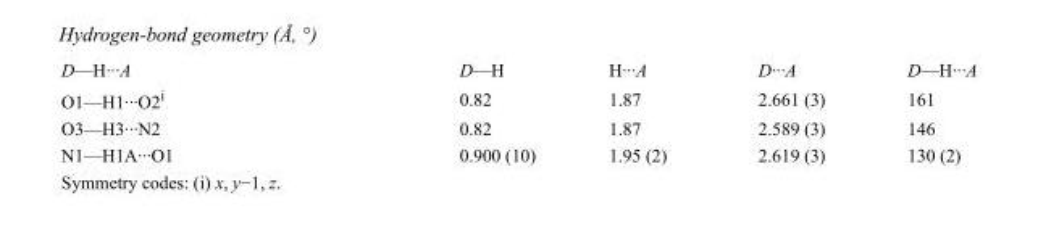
<table><tbody><tr><td>D—H···A</td><td>D—H</td><td>H···A</td><td>D···A</td><td>D—H···A</td></tr><tr><td>O1—H1···O2<sup>i</sup></td><td>0.82</td><td>1.87</td><td>2.661 (3)</td><td>161</td></tr><tr><td>O3—H3···N2</td><td>0.82</td><td>1.87</td><td>2.589 (3)</td><td>146</td></tr><tr><td>N1—H1A···O1</td><td>0.900 (10)</td><td>1.95 (2)</td><td>2.619 (3)</td><td>130 (2)</td></tr></tbody></table>